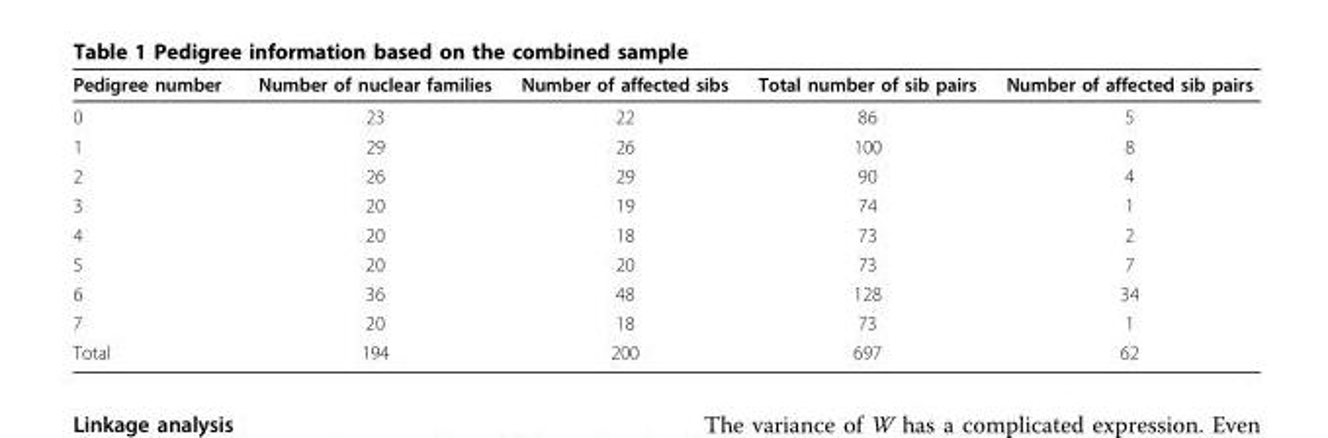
<table><thead><tr><td>Pedigree number</td><td>Number of nuclear families</td><td>Number of affected sibs</td><td>Total number of sib pairs</td><td>Number of affected sib pairs</td></tr></thead><tbody><tr><td>0</td><td>23</td><td>22</td><td>86</td><td>5</td></tr><tr><td>1</td><td>29</td><td>26</td><td>100</td><td>8</td></tr><tr><td>2</td><td>26</td><td>29</td><td>90</td><td>4</td></tr><tr><td>3</td><td>20</td><td>19</td><td>74</td><td>1</td></tr><tr><td>4</td><td>20</td><td>18</td><td>73</td><td>2</td></tr><tr><td>5</td><td>20</td><td>20</td><td>73</td><td>7</td></tr><tr><td>6</td><td>36</td><td>48</td><td>128</td><td>34</td></tr><tr><td>7</td><td>20</td><td>18</td><td>73</td><td>1</td></tr><tr><td>Total</td><td>194</td><td>200</td><td>697</td><td>62</td></tr></tbody></table>